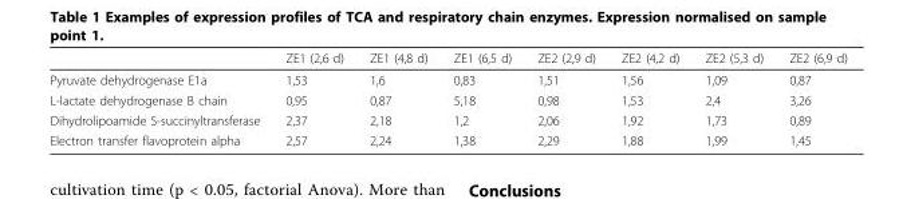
<table><thead><tr><td></td><td>ZE1 (2,6 d)</td><td>ZE1 (4,8 d)</td><td>ZE1 (6,5 d)</td><td>ZE2 (2,9 d)</td><td>ZE2 (4,2 d)</td><td>ZE2 (5,3 d)</td><td>ZE2 (6,9 d)</td></tr></thead><tbody><tr><td>Pyruvate dehydrogenase E1a</td><td>1,53</td><td>1,6</td><td>0,83</td><td>1,51</td><td>1,56</td><td>1,09</td><td>0,87</td></tr><tr><td>L-lactate dehydrogenase B chain</td><td>0,95</td><td>0,87</td><td>5,18</td><td>0,98</td><td>1,53</td><td>2,4</td><td>3,26</td></tr><tr><td>Dihydrolipoamide S-succinyltransferase</td><td>2,37</td><td>2,18</td><td>1,2</td><td>2,06</td><td>1,92</td><td>1,73</td><td>0,89</td></tr><tr><td>Electron transfer flavoprotein alpha</td><td>2,57</td><td>2,24</td><td>1,38</td><td>2,29</td><td>1,88</td><td>1,99</td><td>1,45</td></tr></tbody></table>